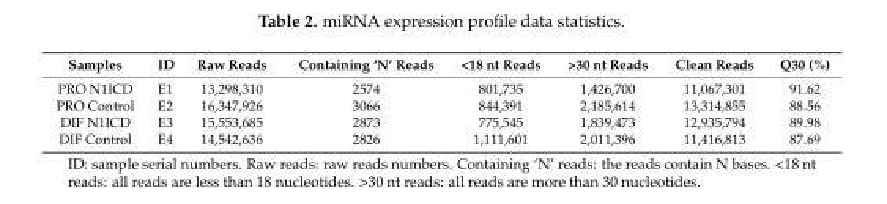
<table><thead><tr><td>Samples</td><td>ID</td><td>Raw Reads</td><td>Containing ‘N’ Reads</td><td>&lt;18 nt Reads</td><td>&gt;30 nt Reads</td><td>Clean Reads</td><td>Q30 (%)</td></tr></thead><tbody><tr><td>PRO N1ICD</td><td>E1</td><td>13,298,310</td><td>2574</td><td>801,735</td><td>1,426,700</td><td>11,067,301</td><td>91.62</td></tr><tr><td>PRO Control</td><td>E2</td><td>16,347,926</td><td>3066</td><td>844,391</td><td>2,185,614</td><td>13,314,855</td><td>88.56</td></tr><tr><td>DIF N1ICD</td><td>E3</td><td>15,553,685</td><td>2873</td><td>775,545</td><td>1,839,473</td><td>12,935,794</td><td>89.98</td></tr><tr><td>DIF Control</td><td>E4</td><td>14,542,636</td><td>2826</td><td>1,111,601</td><td>2,011,396</td><td>11,416,813</td><td>87.69</td></tr></tbody></table>